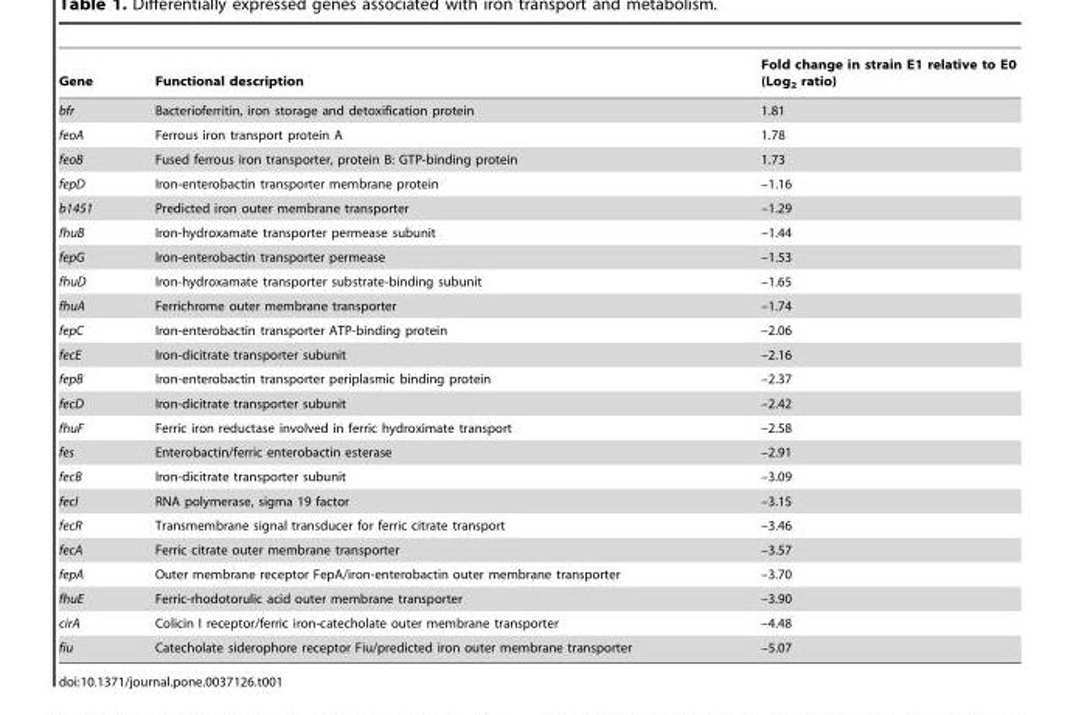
<table><thead><tr><td>Gene</td><td>Functional description</td><td>Fold change in strain E1 relative to E0 (Log<sub>2</sub> ratio)</td></tr></thead><tbody><tr><td>bfr</td><td>Bacterioferritin, iron storage and detoxification protein</td><td>1.81</td></tr><tr><td>feoA</td><td>Ferrous iron transport protein A</td><td>1.78</td></tr><tr><td>feoB</td><td>Fused ferrous iron transporter, protein B: GTP-binding protein</td><td>1.73</td></tr><tr><td>fepD</td><td>Iron-enterobactin transporter membrane protein</td><td>–1.16</td></tr><tr><td>b1451</td><td>Predicted iron outer membrane transporter</td><td>–1.29</td></tr><tr><td>fhuB</td><td>Iron-hydroxamate transporter permease subunit</td><td>–1.44</td></tr><tr><td>fepG</td><td>Iron-enterobactin transporter permease</td><td>–1.53</td></tr><tr><td>fhuD</td><td>Iron-hydroxamate transporter substrate-binding subunit</td><td>–1.65</td></tr><tr><td>fhuA</td><td>Ferrichrome outer membrane transporter</td><td>–1.74</td></tr><tr><td>fepC</td><td>Iron-enterobactin transporter ATP-binding protein</td><td>–2.06</td></tr><tr><td>fecE</td><td>Iron-dicitrate transporter subunit</td><td>–2.16</td></tr><tr><td>fepB</td><td>Iron-enterobactin transporter periplasmic binding protein</td><td>–2.37</td></tr><tr><td>fecD</td><td>Iron-dicitrate transporter subunit</td><td>–2.42</td></tr><tr><td>fhuF</td><td>Ferric iron reductase involved in ferric hydroximate transport</td><td>–2.58</td></tr><tr><td>fes</td><td>Enterobactin/ferric enterobactin esterase</td><td>–2.91</td></tr><tr><td>fecB</td><td>Iron-dicitrate transporter subunit</td><td>–3.09</td></tr><tr><td>fecI</td><td>RNA polymerase, sigma 19 factor</td><td>–3.15</td></tr><tr><td>fecR</td><td>Transmembrane signal transducer for ferric citrate transport</td><td>–3.46</td></tr><tr><td>fecA</td><td>Ferric citrate outer membrane transporter</td><td>–3.57</td></tr><tr><td>fepA</td><td>Outer membrane receptor FepA/iron-enterobactin outer membrane transporter</td><td>–3.70</td></tr><tr><td>fhuE</td><td>Ferric-rhodotorulic acid outer membrane transporter</td><td>–3.90</td></tr><tr><td>cirA</td><td>Colicin I receptor/ferric iron-catecholate outer membrane transporter</td><td>–4.48</td></tr><tr><td>fiu</td><td>Catecholate siderophore receptor Fiu/predicted iron outer membrane transporter</td><td>–5.07</td></tr></tbody></table>